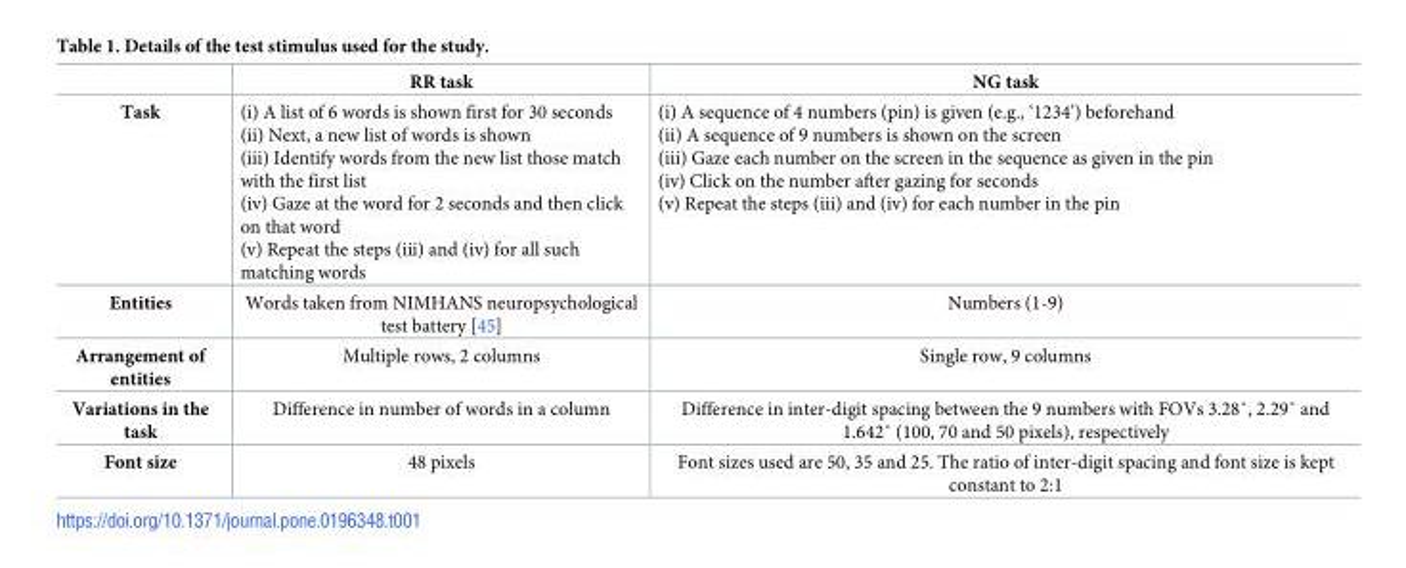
<table><thead><tr><td></td><td>RR task</td><td>NG task</td></tr></thead><tbody><tr><td>Task</td><td>(i) A list of 6 words is shown first for 30 seconds (ii) Next, a new list of words is shown (iii) Identify words from the new list those match with the first list (iv) Gaze at the word for 2 seconds and then click on that word (v) Repeat the steps (iii) and (iv) for all such matching words</td><td>(i) A sequence of 4 numbers (pin) is given (e.g., ‘1234’) beforehand (ii) A sequence of 9 numbers is shown on the screen (iii) Gaze each number on the screen in the sequence as given in the pin (iv) Click on the number after gazing for seconds (v) Repeat the steps (iii) and (iv) for each number in the pin</td></tr><tr><td>Entities</td><td>Words taken from NIMHANS neuropsychological test battery [45]</td><td>Numbers (1-9)</td></tr><tr><td>Arrangement of entities</td><td>Multiple rows, 2 columns</td><td>Single row, 9 columns</td></tr><tr><td>Variations in the task</td><td>Difference in number of words in a column</td><td>Difference in inter-digit spacing between the 9 numbers with FOVs 3.28˚, 2.29˚ and 1.642˚ (100, 70 and 50 pixels), respectively</td></tr><tr><td>Font size</td><td>48 pixels</td><td>Font sizes used are 50, 35 and 25. The ratio of inter-digit spacing and font size is kept constant to 2:1</td></tr></tbody></table>